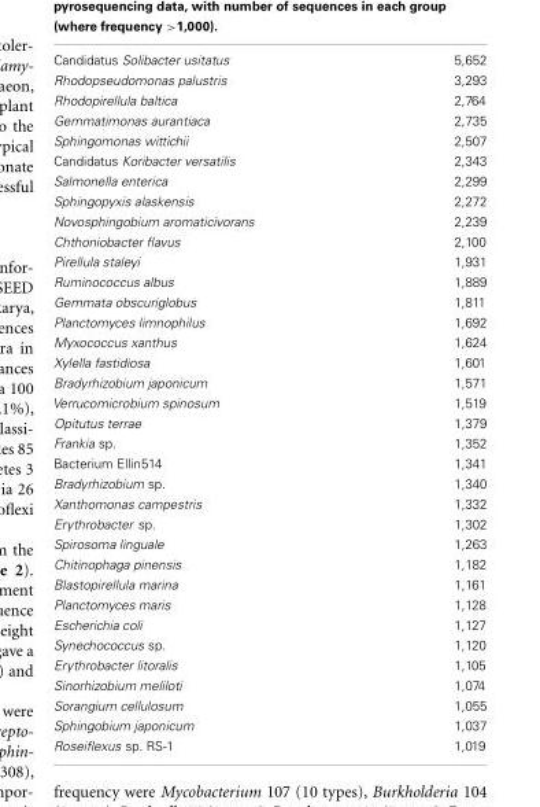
<table><tbody><tr><td>Candidatus Solibacter usitatus</td><td>5,652</td></tr><tr><td>Rhodopseudomonas palustris</td><td>3,293</td></tr><tr><td>Rhodopirellula baltica</td><td>2,764</td></tr><tr><td>Gemmatimonas aurantiaca</td><td>2,735</td></tr><tr><td>Sphingomonas wittichii</td><td>2,507</td></tr><tr><td>Candidatus Koribacter versatilis</td><td>2,343</td></tr><tr><td>Salmonella enterica</td><td>2,299</td></tr><tr><td>Sphingopyxis alaskensis</td><td>2,272</td></tr><tr><td>Novosphingobium aromaticivorans</td><td>2,239</td></tr><tr><td>Chthoniobacter flavus</td><td>2,100</td></tr><tr><td>Pirellula staleyi</td><td>1,931</td></tr><tr><td>Ruminococcus albus</td><td>1,889</td></tr><tr><td>Gemmata obscuriglobus</td><td>1,811</td></tr><tr><td>Planctomyces limnophilus</td><td>1,692</td></tr><tr><td>Myxococcus xanthus</td><td>1,624</td></tr><tr><td>Xylella fastidiosa</td><td>1,601</td></tr><tr><td>Bradyrhizobium japonicum</td><td>1,571</td></tr><tr><td>Verrucomicrobium spinosum</td><td>1,519</td></tr><tr><td>Opitutus terrae</td><td>1,379</td></tr><tr><td>Frankia sp.</td><td>1,352</td></tr><tr><td>Bacterium Ellin514</td><td>1,341</td></tr><tr><td>Bradyrhizobium sp.</td><td>1,340</td></tr><tr><td>Xanthomonas campestris</td><td>1,332</td></tr><tr><td>Erythrobacter sp.</td><td>1,302</td></tr><tr><td>Spirosoma linguale</td><td>1,263</td></tr><tr><td>Chitinophaga pinensis</td><td>1,182</td></tr><tr><td>Blastopirellula marina</td><td>1,161</td></tr><tr><td>Planctomyces maris</td><td>1,128</td></tr><tr><td>Escherichia coli</td><td>1,127</td></tr><tr><td>Synechococcus sp.</td><td>1,120</td></tr><tr><td>Erythrobacter litoralis</td><td>1,105</td></tr><tr><td>Sinorhizobium meliloti</td><td>1,074</td></tr><tr><td>Sorangium cellulosum</td><td>1,055</td></tr><tr><td>Sphingobium japonicum</td><td>1,037</td></tr><tr><td>Roseiflexus sp. RS-1</td><td>1,019</td></tr></tbody></table>